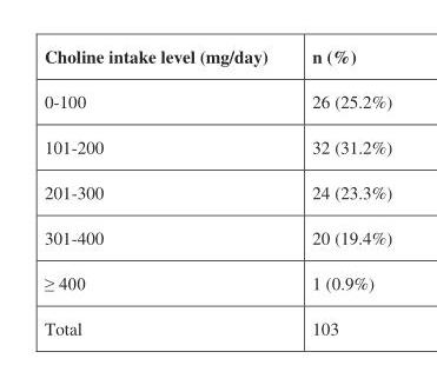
<table><thead><tr><td>Choline intake level (mg/day)</td><td>n (%)</td></tr></thead><tbody><tr><td>0-100</td><td>26 (25.2%)</td></tr><tr><td>101-200</td><td>32 (31.2%)</td></tr><tr><td>201-300</td><td>24 (23.3%)</td></tr><tr><td>301-400</td><td>20 (19.4%)</td></tr><tr><td>≥ 400</td><td>1 (0.9%)</td></tr><tr><td>Total</td><td>103</td></tr></tbody></table>